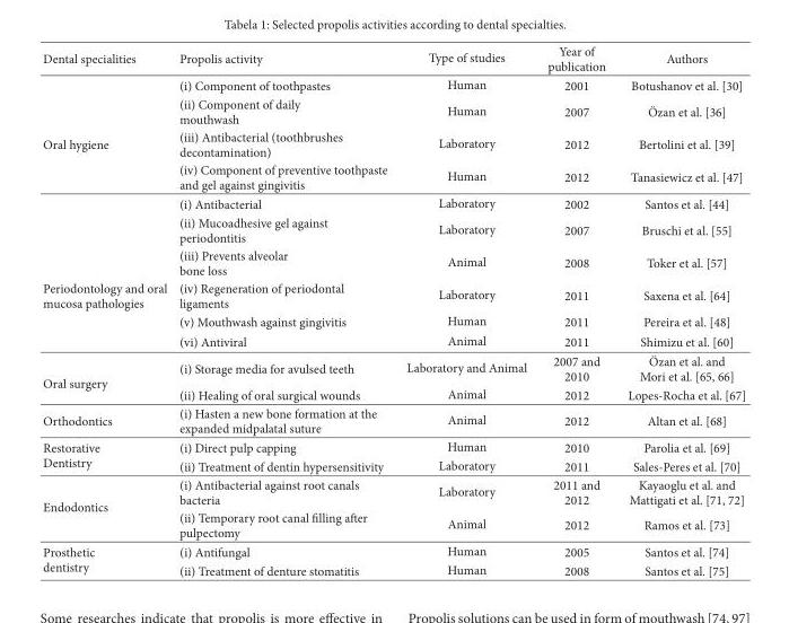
<table><thead><tr><td>Dental specialities</td><td>Propolis activity</td><td>Type of studies</td><td>Year of publication</td><td>Authors</td></tr></thead><tbody><tr><td></td><td>(i) Component of toothpastes</td><td>Human</td><td>2001</td><td>Botushanov et al. [30]</td></tr><tr><td></td><td>(ii) Component of daily mouthwash</td><td>Human</td><td>2007</td><td>Özan et al. [36]</td></tr><tr><td rowspan="5">Oral hygiene</td><td>(iii) Antibacterial (toothbrushes decontamination)</td><td>Laboratory</td><td>2012</td><td>Bertolini et al. [39]</td></tr><tr><td>(iv) Component of preventive toothpaste and gel against gingivitis</td><td>Human</td><td>2012</td><td>Tanasiewicz et al. [47]</td></tr><tr><td>(i) Antibacterial</td><td>Laboratory</td><td>2002</td><td>Santos et al. [44]</td></tr><tr><td>(ii) Mucoadhesive gel against periodontitis</td><td>Laboratory</td><td>2007</td><td>Bruschi et al. [55]</td></tr><tr><td>(iii) Prevents alveolar bone loss</td><td>Animal</td><td>2008</td><td>Toker et al. [57]</td></tr><tr><td rowspan="3">Periodontology and oral mucosa pathologies</td><td>(iv) Regeneration of periodontal ligaments</td><td>Laboratory</td><td>2011</td><td>Saxena et al. [64]</td></tr><tr><td>(v) Mouthwash against gingivitis</td><td>Human</td><td>2011</td><td>Pereira et al. [48]</td></tr><tr><td>(vi) Antiviral</td><td>Animal</td><td>2011</td><td>Shimizu et al. [60]</td></tr><tr><td rowspan="2">Oral surgery</td><td>(i) Storage media for avulsed teeth</td><td>Laboratory and Animal</td><td>2007 and 2010</td><td>Özan et al. and Mori et al. [65, 66]</td></tr><tr><td>(ii) Healing of oral surgical wounds</td><td>Animal</td><td>2012</td><td>Lopes-Rocha et al. [67]</td></tr><tr><td>Orthodontics</td><td>(i) Hasten a new bone formation at the expanded midpalatal suture</td><td>Animal</td><td>2012</td><td>Altan et al. [68]</td></tr><tr><td rowspan="2">Restorative Dentistry</td><td>(i) Direct pulp capping</td><td>Human</td><td>2010</td><td>Parolia et al. [69]</td></tr><tr><td>(ii) Treatment of dentin hypersensitivity</td><td>Laboratory</td><td>2011</td><td>Sales-Peres et al. [70]</td></tr><tr><td rowspan="2">Endodontics</td><td>(i) Antibacterial against root canals bacteria</td><td>Laboratory</td><td>2011 and 2012</td><td>Kayaoglu et al. and Mattigati et al. [71, 72]</td></tr><tr><td>(ii) Temporary root canal �lling aer pulpectomy</td><td>Animal</td><td>2012</td><td>Ramos et al. [73]</td></tr><tr><td rowspan="2">Prosthetic dentistry</td><td>(i) Antifungal</td><td>Human</td><td>2005</td><td>Santos et al. [74]</td></tr><tr><td>(ii) Treatment of denture stomatitis</td><td>Human</td><td>2008</td><td>Santos et al. [75]</td></tr></tbody></table>